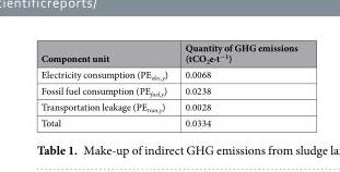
<table><thead><tr><td>Component unit</td><td>Quantity of GHG emissions (tCO<sub>2</sub>e∙t<sup>−1</sup>)</td></tr></thead><tbody><tr><td>Electricity consumption (PE<sub>elec,y</sub>)</td><td>0.0068</td></tr><tr><td>Fossil fuel consumption (PE<sub>fuel,y</sub>)</td><td>0.0238</td></tr><tr><td>Transportation leakage (PE<sub>tran,y</sub>)</td><td>0.0028</td></tr><tr><td>Total</td><td>0.0334</td></tr></tbody></table>